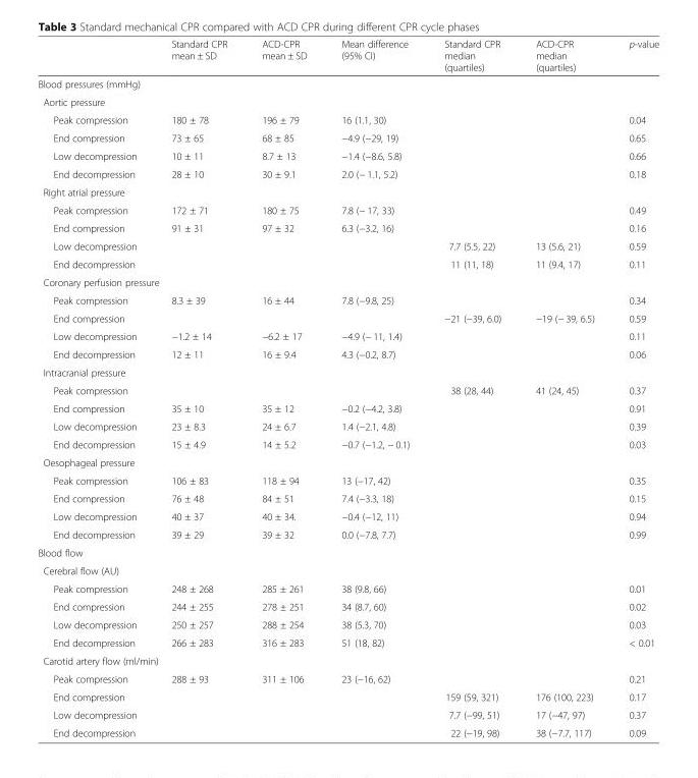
<table><thead><tr><td></td><td>Standard CPR mean ± SD</td><td>ACD-CPR mean ± SD</td><td>Mean difference (95% CI)</td><td>Standard CPR median (quartiles)</td><td>ACD-CPR median (quartiles)</td><td>p-value</td></tr></thead><tbody><tr><td colspan="7">Blood pressures (mmHg)</td></tr><tr><td colspan="7">Aortic pressure</td></tr><tr><td>Peak compression</td><td>180 ± 78</td><td>196 ± 79</td><td>16 (1.1, 30)</td><td colspan="2"></td><td>0.04</td></tr><tr><td>End compression</td><td>73 ± 65</td><td>68 ± 85</td><td>−4.9 (−29, 19)</td><td colspan="2"></td><td>0.65</td></tr><tr><td>Low decompression</td><td>10 ± 11</td><td>8.7 ± 13</td><td>−1.4 (−8.6, 5.8)</td><td colspan="2"></td><td>0.66</td></tr><tr><td>End decompression</td><td>28 ± 10</td><td>30 ± 9.1</td><td>2.0 (− 1.1, 5.2)</td><td colspan="2"></td><td>0.18</td></tr><tr><td colspan="7">Right atrial pressure</td></tr><tr><td>Peak compression</td><td>172 ± 71</td><td>180 ± 75</td><td>7.8 (− 17, 33)</td><td colspan="2"></td><td>0.49</td></tr><tr><td>End compression</td><td>91 ± 31</td><td>97 ± 32</td><td>6.3 (−3.2, 16)</td><td colspan="2"></td><td>0.16</td></tr><tr><td>Low decompression</td><td></td><td></td><td></td><td>7.7 (5.5, 22)</td><td>13 (5.6, 21)</td><td>0.59</td></tr><tr><td>End decompression</td><td></td><td></td><td></td><td>11 (11, 18)</td><td>11 (9.4, 17)</td><td>0.11</td></tr><tr><td colspan="7">Coronary perfusion pressure</td></tr><tr><td>Peak compression</td><td>8.3 ± 39</td><td>16 ± 44</td><td>7.8 (−9.8, 25)</td><td colspan="2"></td><td>0.34</td></tr><tr><td>End compression</td><td></td><td></td><td></td><td>−21 (−39, 6.0)</td><td>−19 (− 39, 6.5)</td><td>0.59</td></tr><tr><td>Low decompression</td><td>−1.2 ± 14</td><td>−6.2 ± 17</td><td>−4.9 (− 11, 1.4)</td><td colspan="2"></td><td>0.11</td></tr><tr><td>End decompression</td><td>12 ± 11</td><td>16 ± 9.4</td><td>4.3 (−0.2, 8.7)</td><td colspan="2"></td><td>0.06</td></tr><tr><td colspan="7">Intracranial pressure</td></tr><tr><td>Peak compression</td><td></td><td></td><td></td><td>38 (28, 44)</td><td>41 (24, 45)</td><td>0.37</td></tr><tr><td>End compression</td><td>35 ± 10</td><td>35 ± 12</td><td>−0.2 (−4.2, 3.8)</td><td colspan="2"></td><td>0.91</td></tr><tr><td>Low decompression</td><td>23 ± 8.3</td><td>24 ± 6.7</td><td>1.4 (−2.1, 4.8)</td><td colspan="2"></td><td>0.39</td></tr><tr><td>End decompression</td><td>15 ± 4.9</td><td>14 ± 5.2</td><td>−0.7 (−1.2, − 0.1)</td><td colspan="2"></td><td>0.03</td></tr><tr><td colspan="7">Oesophageal pressure</td></tr><tr><td>Peak compression</td><td>106 ± 83</td><td>118 ± 94</td><td>13 (−17, 42)</td><td colspan="2"></td><td>0.35</td></tr><tr><td>End compression</td><td>76 ± 48</td><td>84 ± 51</td><td>7.4 (−3.3, 18)</td><td colspan="2"></td><td>0.15</td></tr><tr><td>Low decompression</td><td>40 ± 37</td><td>40 ± 34.</td><td>−0.4 (−12, 11)</td><td colspan="2"></td><td>0.94</td></tr><tr><td>End decompression</td><td>39 ± 29</td><td>39 ± 32</td><td>0.0 (−7.8, 7.7)</td><td colspan="2"></td><td>0.99</td></tr><tr><td colspan="7">Blood flow</td></tr><tr><td colspan="7">Cerebral flow (AU)</td></tr><tr><td>Peak compression</td><td>248 ± 268</td><td>285 ± 261</td><td>38 (9.8, 66)</td><td colspan="2"></td><td>0.01</td></tr><tr><td>End compression</td><td>244 ± 255</td><td>278 ± 251</td><td>34 (8.7, 60)</td><td colspan="2"></td><td>0.02</td></tr><tr><td>Low decompression</td><td>250 ± 257</td><td>288 ± 254</td><td>38 (5.3, 70)</td><td colspan="2"></td><td>0.03</td></tr><tr><td>End decompression</td><td>266 ± 283</td><td>316 ± 283</td><td>51 (18, 82)</td><td colspan="2"></td><td>&lt; 0.01</td></tr><tr><td colspan="7">Carotid artery flow (ml/min)</td></tr><tr><td>Peak compression</td><td>288 ± 93</td><td>311 ± 106</td><td>23 (−16, 62)</td><td colspan="2"></td><td>0.21</td></tr><tr><td>End compression</td><td colspan="3"></td><td>159 (59, 321)</td><td>176 (100, 223)</td><td>0.17</td></tr><tr><td>Low decompression</td><td colspan="3"></td><td>7.7 (−99, 51)</td><td>17 (−47, 97)</td><td>0.37</td></tr><tr><td>End decompression</td><td colspan="3"></td><td>22 (−19, 98)</td><td>38 (−7.7, 117)</td><td>0.09</td></tr></tbody></table>